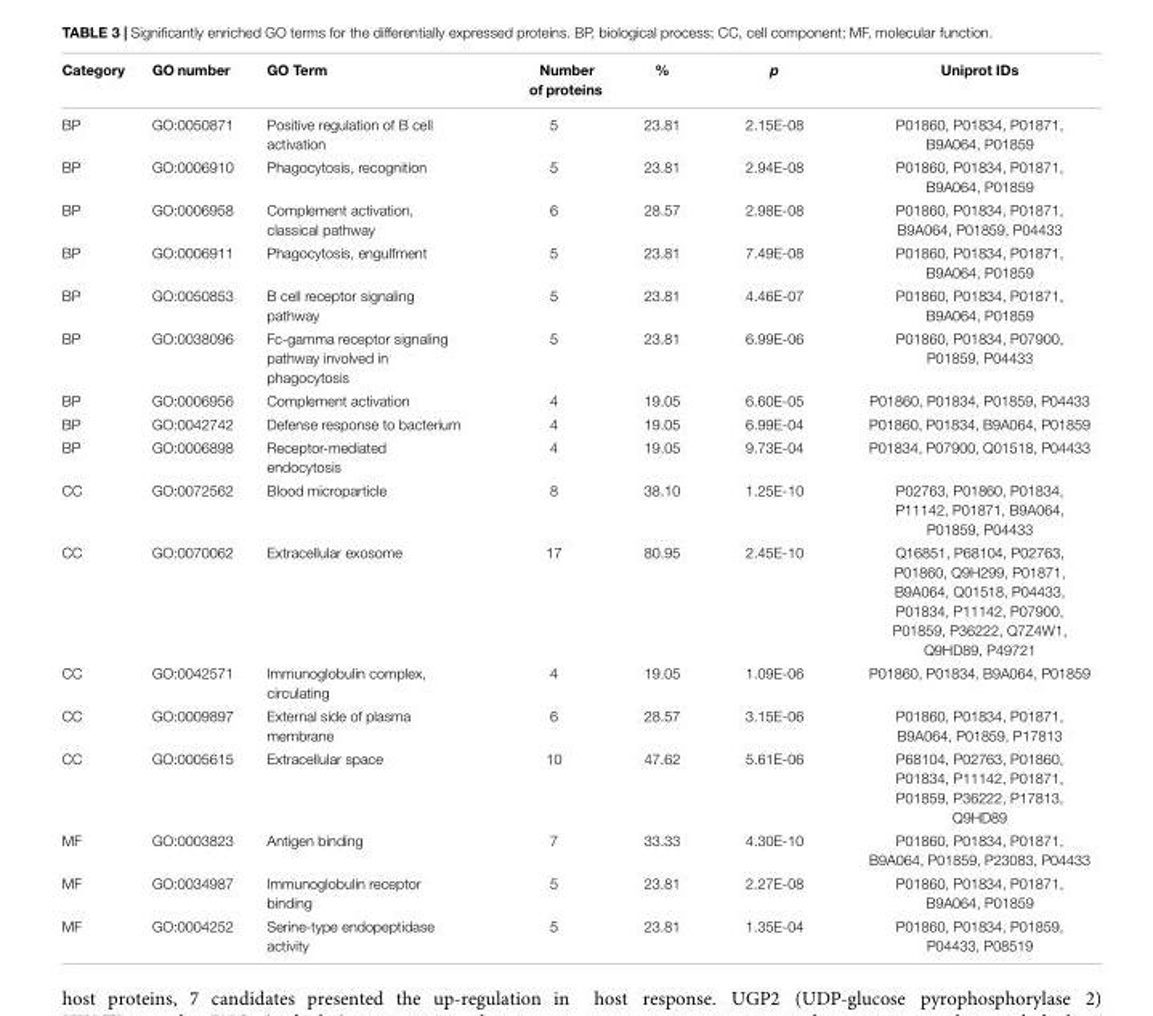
<table><thead><tr><td>Category</td><td>GO number</td><td>GO Term</td><td>Number of proteins</td><td>%</td><td>p</td><td>Uniprot IDs</td></tr></thead><tbody><tr><td>BP</td><td>GO:0050871</td><td>Positive regulation of B cell activation</td><td>5</td><td>23.81</td><td>2.15E-08</td><td>P01860, P01834, P01871, B9A064, P01859</td></tr><tr><td>BP</td><td>GO:0006910</td><td>Phagocytosis, recognition</td><td>5</td><td>23.81</td><td>2.94E-08</td><td>P01860, P01834, P01871, B9A064, P01859</td></tr><tr><td>BP</td><td>GO:0006958</td><td>Complement activation, classical pathway</td><td>6</td><td>28.57</td><td>2.98E-08</td><td>P01860, P01834, P01871, B9A064, P01859, P04433</td></tr><tr><td>BP</td><td>GO:0006911</td><td>Phagocytosis, engulfment</td><td>5</td><td>23.81</td><td>7.49E-08</td><td>P01860, P01834, P01871, B9A064, P01859</td></tr><tr><td>BP</td><td>GO:0050853</td><td>B cell receptor signaling pathway</td><td>5</td><td>23.81</td><td>4.46E-07</td><td>P01860, P01834, P01871, B9A064, P01859</td></tr><tr><td>BP</td><td>GO:0038096</td><td>Fc-gamma receptor signaling pathway involved in phagocytosis</td><td>5</td><td>23.81</td><td>6.99E-06</td><td>P01860, P01834, P07900, P01859, P04433</td></tr><tr><td>BP</td><td>GO:0006956</td><td>Complement activation</td><td>4</td><td>19.05</td><td>6.60E-05</td><td>P01860, P01834, P01859, P04433</td></tr><tr><td>BP</td><td>GO:0042742</td><td>Defense response to bacterium</td><td>4</td><td>19.05</td><td>6.99E-04</td><td>P01860, P01834, B9A064, P01859</td></tr><tr><td>BP</td><td>GO:0006898</td><td>Receptor-mediated endocytosis</td><td>4</td><td>19.05</td><td>9.73E-04</td><td>P01834, P07900, Q01518, P04433</td></tr><tr><td>CC</td><td>GO:0072562</td><td>Blood microparticle</td><td>8</td><td>38.10</td><td>1.25E-10</td><td>P02763, P01860, P01834, P11142, P01871, B9A064, P01859, P04433</td></tr><tr><td>CC</td><td>GO:0070062</td><td>Extracellular exosome</td><td>17</td><td>80.95</td><td>2.45E-10</td><td>Q16851, P68104, P02763, P01860, Q9H299, P01871, B9A064, Q01518, P04433, P01834, P11142, P07900, P01859, P36222, Q7Z4W1, Q9HD89, P49721</td></tr><tr><td>CC</td><td>GO:0042571</td><td>Immunoglobulin complex, circulating</td><td>4</td><td>19.05</td><td>1.09E-06</td><td>P01860, P01834, B9A064, P01859</td></tr><tr><td>CC</td><td>GO:0009897</td><td>External side of plasma membrane</td><td>6</td><td>28.57</td><td>3.15E-06</td><td>P01860, P01834, P01871, B9A064, P01859, P17813</td></tr><tr><td>CC</td><td>GO:0005615</td><td>Extracellular space</td><td>10</td><td>47.62</td><td>5.61E-06</td><td>P68104, P02763, P01860, P01834, P11142, P01871, P01859, P36222, P17813, Q9HD89</td></tr><tr><td>MF</td><td>GO:0003823</td><td>Antigen binding</td><td>7</td><td>33.33</td><td>4.30E-10</td><td>P01860, P01834, P01871, B9A064, P01859, P23083, P04433</td></tr><tr><td>MF</td><td>GO:0034987</td><td>Immunoglobulin receptor binding</td><td>5</td><td>23.81</td><td>2.27E-08</td><td>P01860, P01834, P01871, B9A064, P01859</td></tr><tr><td>MF</td><td>GO:0004252</td><td>Serine-type endopeptidase activity</td><td>5</td><td>23.81</td><td>1.35E-04</td><td>P01860, P01834, P01859, P04433, P08519</td></tr></tbody></table>